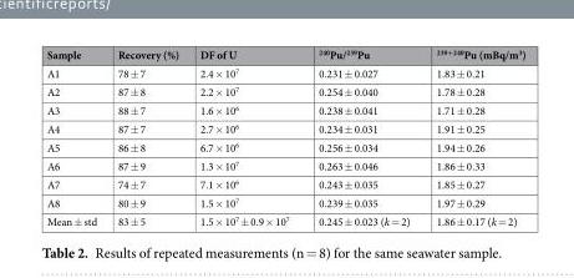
<table><thead><tr><td>Sample</td><td>Recovery (%)</td><td>DF of U</td><td><sup>240</sup>Pu/<sup>239</sup>Pu</td><td><sup>239+240</sup>Pu (mBq/m<sup>3</sup>)</td></tr></thead><tbody><tr><td>A1</td><td>78 ± 7</td><td>2.4 × 10<sup>7</sup></td><td>0.231 ± 0.027</td><td>1.83 ± 0.21</td></tr><tr><td>A2</td><td>87 ± 8</td><td>2.2 × 10<sup>7</sup></td><td>0.254 ± 0.040</td><td>1.78 ± 0.28</td></tr><tr><td>A3</td><td>88 ± 7</td><td>1.6 × 10<sup>6</sup></td><td>0.238 ± 0.041</td><td>1.71 ± 0.28</td></tr><tr><td>A4</td><td>87 ± 7</td><td>2.7 × 10<sup>6</sup></td><td>0.234 ± 0.031</td><td>1.91 ± 0.25</td></tr><tr><td>A5</td><td>86 ± 8</td><td>6.7 × 10<sup>6</sup></td><td>0.256 ± 0.034</td><td>1.94 ± 0.26</td></tr><tr><td>A6</td><td>87 ± 9</td><td>1.3 × 10<sup>7</sup></td><td>0.263 ± 0.046</td><td>1.86 ± 0.33</td></tr><tr><td>A7</td><td>74 ± 7</td><td>7.1 × 10<sup>6</sup></td><td>0.243 ± 0.035</td><td>1.85 ± 0.27</td></tr><tr><td>A8</td><td>80 ± 9</td><td>1.5 × 10<sup>7</sup></td><td>0.239 ± 0.035</td><td>1.97 ± 0.29</td></tr><tr><td>Mean ± std</td><td>83 ± 5</td><td>1.5 × 10<sup>7</sup> ± 0.9 × 10<sup>7</sup></td><td>0.245 ± 0.023 (k = 2)</td><td>1.86 ± 0.17 (k = 2)</td></tr></tbody></table>